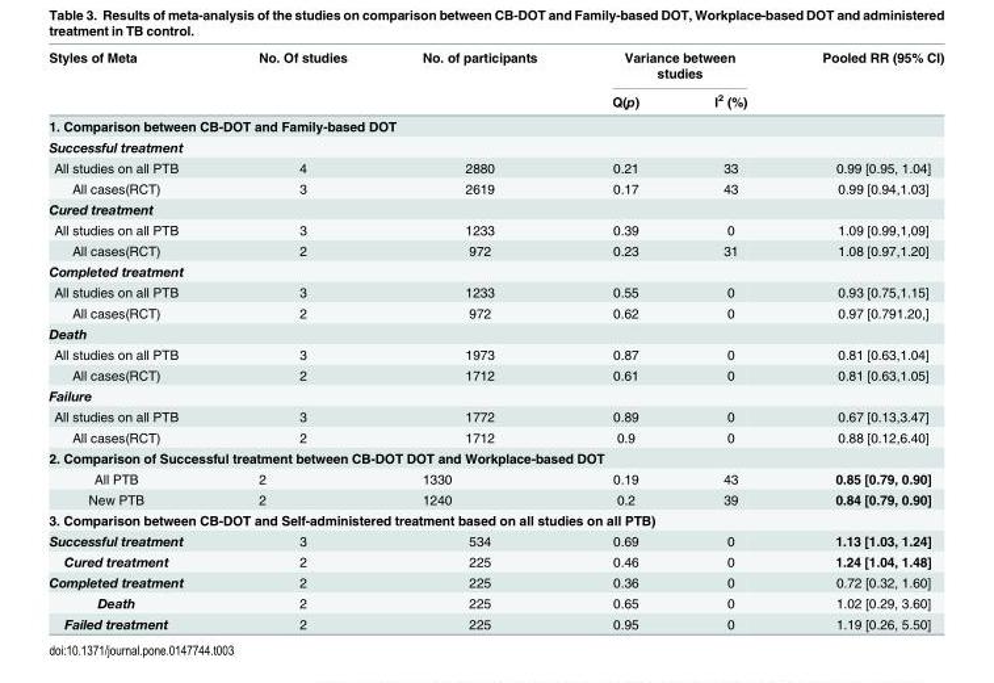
<table><thead><tr><td rowspan="2">Styles of Meta</td><td rowspan="2">No. Of studies</td><td rowspan="2">No. of participants</td><td colspan="2">Variance between studies</td><td rowspan="2">Pooled RR (95% CI)</td></tr><tr><td>Q(p)</td><td>I<sup>2</sup> (%)</td></tr></thead><tbody><tr><td colspan="6">1. Comparison between CB-DOT and Family-based DOT</td></tr><tr><td colspan="6">Successful treatment</td></tr><tr><td>All studies on all PTB</td><td>4</td><td>2880</td><td>0.21</td><td>33</td><td>0.99 [0.95, 1.04]</td></tr><tr><td>All cases(RCT)</td><td>3</td><td>2619</td><td>0.17</td><td>43</td><td>0.99 [0.94,1.03]</td></tr><tr><td colspan="6">Cured treatment</td></tr><tr><td>All studies on all PTB</td><td>3</td><td>1233</td><td>0.39</td><td>0</td><td>1.09 [0.99,1,09]</td></tr><tr><td>All cases(RCT)</td><td>2</td><td>972</td><td>0.23</td><td>31</td><td>1.08 [0.97,1.20]</td></tr><tr><td colspan="6">Completed treatment</td></tr><tr><td>All studies on all PTB</td><td>3</td><td>1233</td><td>0.55</td><td>0</td><td>0.93 [0.75,1.15]</td></tr><tr><td>All cases(RCT)</td><td>2</td><td>972</td><td>0.62</td><td>0</td><td>0.97 [0.791.20,]</td></tr><tr><td colspan="6">Death</td></tr><tr><td>All studies on all PTB</td><td>3</td><td>1973</td><td>0.87</td><td>0</td><td>0.81 [0.63,1.04]</td></tr><tr><td>All cases(RCT)</td><td>2</td><td>1712</td><td>0.61</td><td>0</td><td>0.81 [0.63,1.05]</td></tr><tr><td colspan="6">Failure</td></tr><tr><td>All studies on all PTB</td><td>3</td><td>1772</td><td>0.89</td><td>0</td><td>0.67 [0.13,3.47]</td></tr><tr><td>All cases(RCT)</td><td>2</td><td>1712</td><td>0.9</td><td>0</td><td>0.88 [0.12,6.40]</td></tr><tr><td colspan="6">2. Comparison of Successful treatment between CB-DOT DOT and Workplace-based DOT</td></tr><tr><td>All PTB</td><td>2</td><td>1330</td><td>0.19</td><td>43</td><td>0.85 [0.79, 0.90]</td></tr><tr><td>New PTB</td><td>2</td><td>1240</td><td>0.2</td><td>39</td><td>0.84 [0.79, 0.90]</td></tr><tr><td colspan="6">3. Comparison between CB-DOT and Self-administered treatment based on all studies on all PTB)</td></tr><tr><td>Successful treatment</td><td>3</td><td>534</td><td>0.69</td><td>0</td><td>1.13 [1.03, 1.24]</td></tr><tr><td>Cured treatment</td><td>2</td><td>225</td><td>0.46</td><td>0</td><td>1.24 [1.04, 1.48]</td></tr><tr><td>Completed treatment</td><td>2</td><td>225</td><td>0.36</td><td>0</td><td>0.72 [0.32, 1.60]</td></tr><tr><td>Death</td><td>2</td><td>225</td><td>0.65</td><td>0</td><td>1.02 [0.29, 3.60]</td></tr><tr><td>Failed treatment</td><td>2</td><td>225</td><td>0.95</td><td>0</td><td>1.19 [0.26, 5.50]</td></tr></tbody></table>